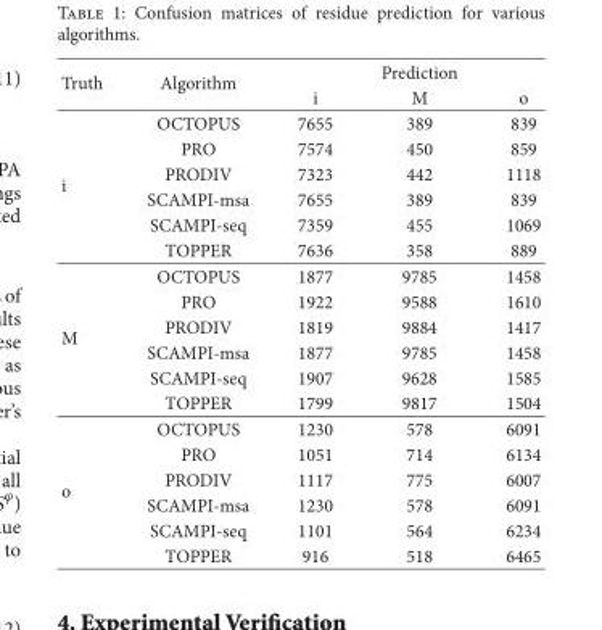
<table><thead><tr><td rowspan="2">Truth</td><td rowspan="2">Algorithm</td><td rowspan="2">i</td><td rowspan="2">Prediction M</td><td rowspan="2">o</td></tr><tr></tr></thead><tbody><tr><td></td><td>OCTOPUS</td><td>7655</td><td>389</td><td>839</td></tr><tr><td></td><td>PRO</td><td>7574</td><td>450</td><td>859</td></tr><tr><td rowspan="6">i</td><td>PRODIV</td><td>7323</td><td>442</td><td>1118</td></tr><tr><td>SCAMPI-msa</td><td>7655</td><td>389</td><td>839</td></tr><tr><td>SCAMPI-seq</td><td>7359</td><td>455</td><td>1069</td></tr><tr><td>TOPPER</td><td>7636</td><td>358</td><td>889</td></tr><tr><td>OCTOPUS</td><td>1877</td><td>9785</td><td>1458</td></tr><tr><td>PRO</td><td>1922</td><td>9588</td><td>1610</td></tr><tr><td rowspan="6">M</td><td>PRODIV</td><td>1819</td><td>9884</td><td>1417</td></tr><tr><td>SCAMPI-msa</td><td>1877</td><td>9785</td><td>1458</td></tr><tr><td>SCAMPI-seq</td><td>1907</td><td>9628</td><td>1585</td></tr><tr><td>TOPPER</td><td>1799</td><td>9817</td><td>1504</td></tr><tr><td>OCTOPUS</td><td>1230</td><td>578</td><td>6091</td></tr><tr><td>PRO</td><td>1051</td><td>714</td><td>6134</td></tr><tr><td rowspan="4">o</td><td>PRODIV</td><td>1117</td><td>775</td><td>6007</td></tr><tr><td>SCAMPI-msa</td><td>1230</td><td>578</td><td>6091</td></tr><tr><td>SCAMPI-seq</td><td>1101</td><td>564</td><td>6234</td></tr><tr><td>TOPPER</td><td>916</td><td>518</td><td>6465</td></tr></tbody></table>